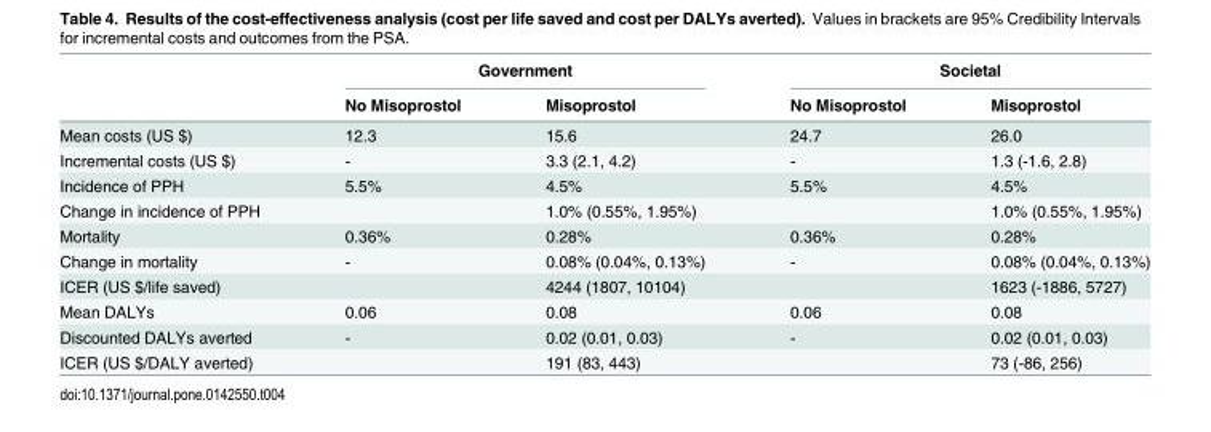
<table><thead><tr><td rowspan="2"></td><td colspan="2">Government</td><td colspan="2">Societal</td></tr><tr><td>No Misoprostol</td><td>Misoprostol</td><td>No Misoprostol</td><td>Misoprostol</td></tr></thead><tbody><tr><td>Mean costs (US $)</td><td>12.3</td><td>15.6</td><td>24.7</td><td>26.0</td></tr><tr><td>Incremental costs (US $)</td><td>-</td><td>3.3 (2.1, 4.2)</td><td>-</td><td>1.3 (-1.6, 2.8)</td></tr><tr><td>Incidence of PPH</td><td>5.5%</td><td>4.5%</td><td>5.5%</td><td>4.5%</td></tr><tr><td>Change in incidence of PPH</td><td></td><td>1.0% (0.55%, 1.95%)</td><td></td><td>1.0% (0.55%, 1.95%)</td></tr><tr><td>Mortality</td><td>0.36%</td><td>0.28%</td><td>0.36%</td><td>0.28%</td></tr><tr><td>Change in mortality</td><td>-</td><td>0.08% (0.04%, 0.13%)</td><td>-</td><td>0.08% (0.04%, 0.13%)</td></tr><tr><td>ICER (US $/life saved)</td><td></td><td>4244 (1807, 10104)</td><td></td><td>1623 (-1886, 5727)</td></tr><tr><td>Mean DALYs</td><td>0.06</td><td>0.08</td><td>0.06</td><td>0.08</td></tr><tr><td>Discounted DALYs averted</td><td>-</td><td>0.02 (0.01, 0.03)</td><td>-</td><td>0.02 (0.01, 0.03)</td></tr><tr><td>ICER (US $/DALY averted)</td><td></td><td>191 (83, 443)</td><td></td><td>73 (-86, 256)</td></tr></tbody></table>